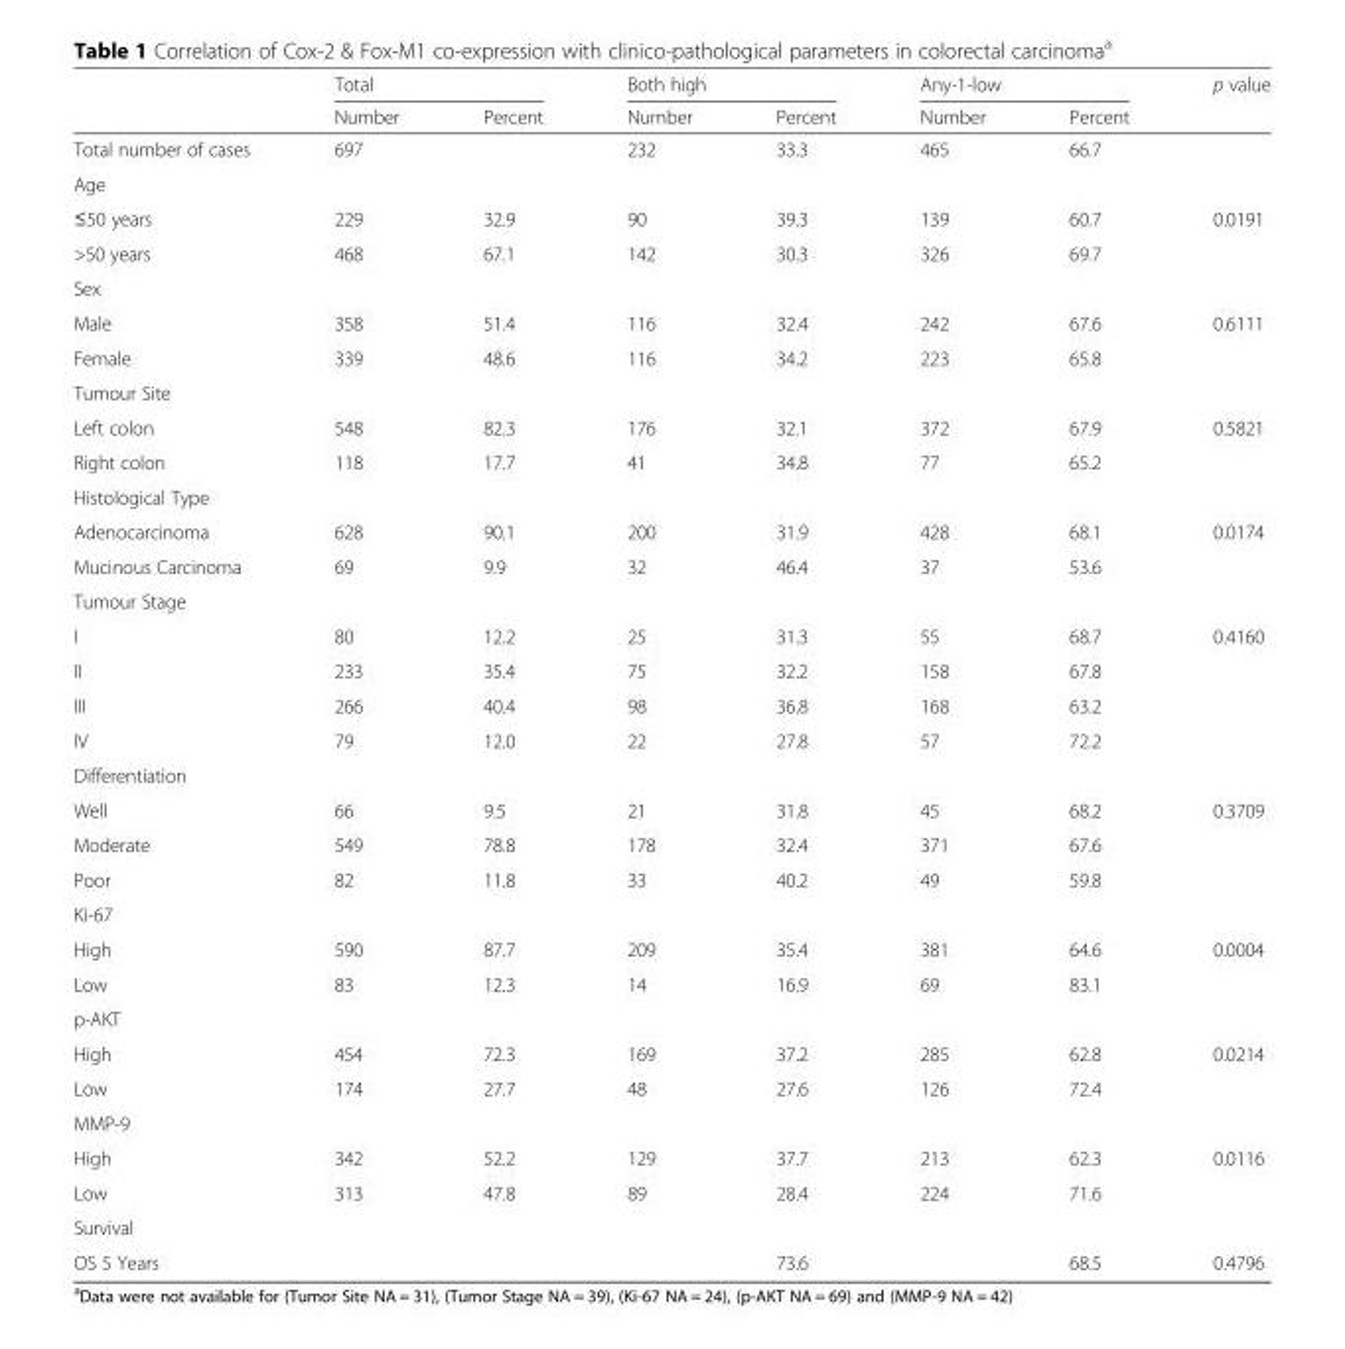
<table><thead><tr><td rowspan="2"></td><td colspan="2">Total</td><td colspan="2">Both high</td><td colspan="2">Any-1-low</td><td rowspan="2">p value</td></tr><tr><td>Number</td><td>Percent</td><td>Number</td><td>Percent</td><td>Number</td><td>Percent</td></tr></thead><tbody><tr><td>Total number of cases</td><td>697</td><td></td><td>232</td><td>33.3</td><td>465</td><td>66.7</td><td></td></tr><tr><td colspan="8">Age</td></tr><tr><td>≤50 years</td><td>229</td><td>32.9</td><td>90</td><td>39.3</td><td>139</td><td>60.7</td><td>0.0191</td></tr><tr><td>&gt;50 years</td><td>468</td><td>67.1</td><td>142</td><td>30.3</td><td>326</td><td>69.7</td><td></td></tr><tr><td colspan="8">Sex</td></tr><tr><td>Male</td><td>358</td><td>51.4</td><td>116</td><td>32.4</td><td>242</td><td>67.6</td><td>0.6111</td></tr><tr><td>Female</td><td>339</td><td>48.6</td><td>116</td><td>34.2</td><td>223</td><td>65.8</td><td></td></tr><tr><td colspan="8">Tumour Site</td></tr><tr><td>Left colon</td><td>548</td><td>82.3</td><td>176</td><td>32.1</td><td>372</td><td>67.9</td><td>0.5821</td></tr><tr><td>Right colon</td><td>118</td><td>17.7</td><td>41</td><td>34.8</td><td>77</td><td>65.2</td><td></td></tr><tr><td colspan="8">Histological Type</td></tr><tr><td>Adenocarcinoma</td><td>628</td><td>90.1</td><td>200</td><td>31.9</td><td>428</td><td>68.1</td><td>0.0174</td></tr><tr><td>Mucinous Carcinoma</td><td>69</td><td>9.9</td><td>32</td><td>46.4</td><td>37</td><td>53.6</td><td></td></tr><tr><td colspan="8">Tumour Stage</td></tr><tr><td>I</td><td>80</td><td>12.2</td><td>25</td><td>31.3</td><td>55</td><td>68.7</td><td>0.4160</td></tr><tr><td>II</td><td>233</td><td>35.4</td><td>75</td><td>32.2</td><td>158</td><td>67.8</td><td></td></tr><tr><td>III</td><td>266</td><td>40.4</td><td>98</td><td>36.8</td><td>168</td><td>63.2</td><td></td></tr><tr><td>IV</td><td>79</td><td>12.0</td><td>22</td><td>27.8</td><td>57</td><td>72.2</td><td></td></tr><tr><td colspan="8">Differentiation</td></tr><tr><td>Well</td><td>66</td><td>9.5</td><td>21</td><td>31.8</td><td>45</td><td>68.2</td><td>0.3709</td></tr><tr><td>Moderate</td><td>549</td><td>78.8</td><td>178</td><td>32.4</td><td>371</td><td>67.6</td><td></td></tr><tr><td>Poor</td><td>82</td><td>11.8</td><td>33</td><td>40.2</td><td>49</td><td>59.8</td><td></td></tr><tr><td colspan="8">Ki-67</td></tr><tr><td>High</td><td>590</td><td>87.7</td><td>209</td><td>35.4</td><td>381</td><td>64.6</td><td>0.0004</td></tr><tr><td>Low</td><td>83</td><td>12.3</td><td>14</td><td>16.9</td><td>69</td><td>83.1</td><td></td></tr><tr><td colspan="8">p-AKT</td></tr><tr><td>High</td><td>454</td><td>72.3</td><td>169</td><td>37.2</td><td>285</td><td>62.8</td><td>0.0214</td></tr><tr><td>Low</td><td>174</td><td>27.7</td><td>48</td><td>27.6</td><td>126</td><td>72.4</td><td></td></tr><tr><td colspan="8">MMP-9</td></tr><tr><td>High</td><td>342</td><td>52.2</td><td>129</td><td>37.7</td><td>213</td><td>62.3</td><td>0.0116</td></tr><tr><td>Low</td><td>313</td><td>47.8</td><td>89</td><td>28.4</td><td>224</td><td>71.6</td><td></td></tr><tr><td colspan="8">Survival</td></tr><tr><td>OS 5 Years</td><td></td><td></td><td></td><td>73.6</td><td></td><td>68.5</td><td>0.4796</td></tr></tbody></table>